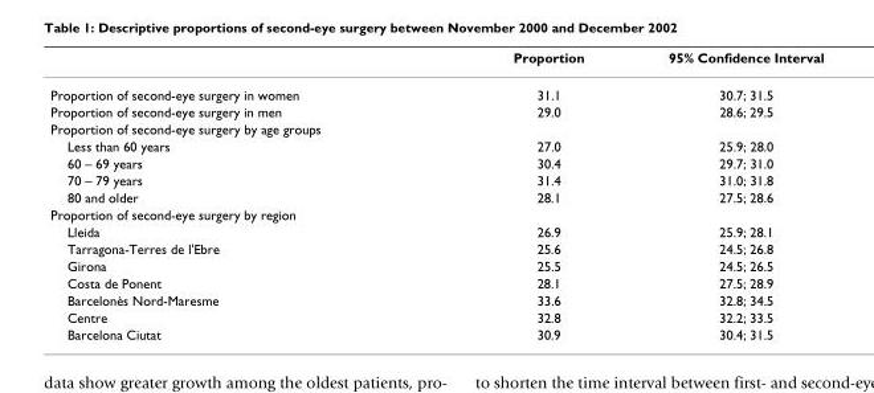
<table><thead><tr><td></td><td>Proportion</td><td>95% Confidence Interval</td></tr></thead><tbody><tr><td>Proportion of second-eye surgery in women</td><td>31.1</td><td>30.7; 31.5</td></tr><tr><td>Proportion of second-eye surgery in men</td><td>29.0</td><td>28.6; 29.5</td></tr><tr><td colspan="3">Proportion of second-eye surgery by age groups</td></tr><tr><td>Less than 60 years</td><td>27.0</td><td>25.9; 28.0</td></tr><tr><td>60 – 69 years</td><td>30.4</td><td>29.7; 31.0</td></tr><tr><td>70 – 79 years</td><td>31.4</td><td>31.0; 31.8</td></tr><tr><td>80 and older</td><td>28.1</td><td>27.5; 28.6</td></tr><tr><td colspan="3">Proportion of second-eye surgery by region</td></tr><tr><td>Lleida</td><td>26.9</td><td>25.9; 28.1</td></tr><tr><td>Tarragona-Terres de l&#x27;Ebre</td><td>25.6</td><td>24.5; 26.8</td></tr><tr><td>Girona</td><td>25.5</td><td>24.5; 26.5</td></tr><tr><td>Costa de Ponent</td><td>28.1</td><td>27.5; 28.9</td></tr><tr><td>Barcelonès Nord-Maresme</td><td>33.6</td><td>32.8; 34.5</td></tr><tr><td>Centre</td><td>32.8</td><td>32.2; 33.5</td></tr><tr><td>Barcelona Ciutat</td><td>30.9</td><td>30.4; 31.5</td></tr></tbody></table>